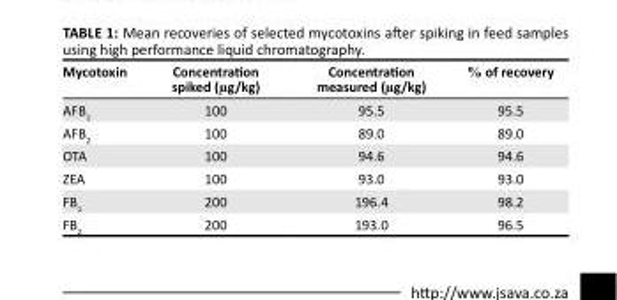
<table><thead><tr><td>Mycotoxin</td><td>Concentration spiked (µg/kg)</td><td>Concentration measured (µg/kg)</td><td>% of recovery</td></tr></thead><tbody><tr><td>AFB<sub>1</sub></td><td>100</td><td>95.5</td><td>95.5</td></tr><tr><td>AFB<sub>2</sub></td><td>100</td><td>89.0</td><td>89.0</td></tr><tr><td>OTA</td><td>100</td><td>94.6</td><td>94.6</td></tr><tr><td>ZEA</td><td>100</td><td>93.0</td><td>93.0</td></tr><tr><td>FB<sub>1</sub></td><td>200</td><td>196.4</td><td>98.2</td></tr><tr><td>FB<sub>2</sub></td><td>200</td><td>193.0</td><td>96.5</td></tr></tbody></table>